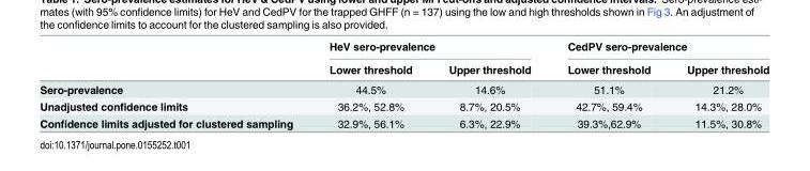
<table><thead><tr><td rowspan="2"></td><td colspan="2">HeV sero-prevalence</td><td colspan="2">CedPV sero-prevalence</td></tr><tr><td>Lower threshold</td><td>Upper threshold</td><td>Lower threshold</td><td>Upper threshold</td></tr></thead><tbody><tr><td>Sero-prevalence</td><td>44.5%</td><td>14.6%</td><td>51.1%</td><td>21.2%</td></tr><tr><td>Unadjusted confidence limits</td><td>36.2%, 52.8%</td><td>8.7%, 20.5%</td><td>42.7%, 59.4%</td><td>14.3%, 28.0%</td></tr><tr><td>Confidence limits adjusted for clustered sampling</td><td>32.9%, 56.1%</td><td>6.3%, 22.9%</td><td>39.3%,62.9%</td><td>11.5%, 30.8%</td></tr></tbody></table>